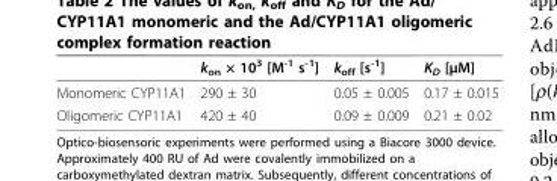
<table><thead><tr><td></td><td>k<sub>on</sub> × 10<sup>3</sup> [M<sup>-1</sup> s<sup>-1</sup>]</td><td>k<sub>off</sub> [s<sup>-1</sup>]</td><td>K<sub>D</sub> [μM]</td></tr></thead><tbody><tr><td>Monomeric CYP11A1</td><td>290 ± 30</td><td>0.05 ± 0.005</td><td>0.17 ± 0.015</td></tr><tr><td>Oligomeric CYP11A1</td><td>420 ± 40</td><td>0.09 ± 0.009</td><td>0.21 ± 0.02</td></tr></tbody></table>